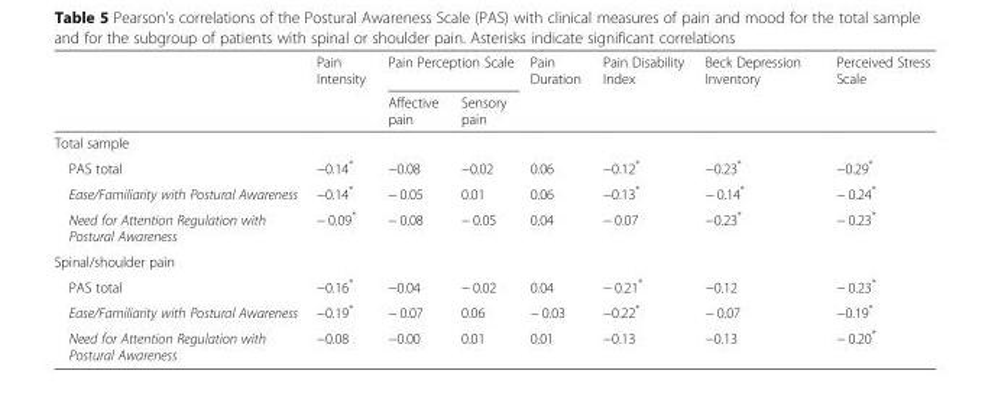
<table><thead><tr><td rowspan="2"></td><td rowspan="2">Pain Intensity</td><td colspan="2">Pain Perception Scale</td><td rowspan="2">Pain Duration</td><td rowspan="2">Pain Disability Index</td><td rowspan="2">Beck Depression Inventory</td><td rowspan="2">Perceived Stress Scale</td></tr><tr><td>Affective pain</td><td>Sensory pain</td></tr></thead><tbody><tr><td colspan="8">Total sample</td></tr><tr><td>PAS total</td><td>−0.14*</td><td>−0.08</td><td>−0.02</td><td>0.06</td><td>−0.12*</td><td>−0.23*</td><td>−0.29*</td></tr><tr><td>Ease/Familiarity with Postural Awareness</td><td>−0.14*</td><td>− 0.05</td><td>0.01</td><td>0.06</td><td>−0.13*</td><td>− 0.14*</td><td>− 0.24*</td></tr><tr><td>Need for Attention Regulation with Postural Awareness</td><td>− 0.09*</td><td>− 0.08</td><td>− 0.05</td><td>0.04</td><td>− 0.07</td><td>−0.23*</td><td>− 0.23*</td></tr><tr><td colspan="8">Spinal/shoulder pain</td></tr><tr><td>PAS total</td><td>−0.16*</td><td>−0.04</td><td>− 0.02</td><td>0.04</td><td>− 0.21*</td><td>−0.12</td><td>− 0.23*</td></tr><tr><td>Ease/Familiarity with Postural Awareness</td><td>−0.19*</td><td>− 0.07</td><td>0.06</td><td>− 0.03</td><td>−0.22*</td><td>− 0.07</td><td>−0.19*</td></tr><tr><td>Need for Attention Regulation with Postural Awareness</td><td>−0.08</td><td>−0.00</td><td>0.01</td><td>0.01</td><td>−0.13</td><td>−0.13</td><td>− 0.20*</td></tr></tbody></table>